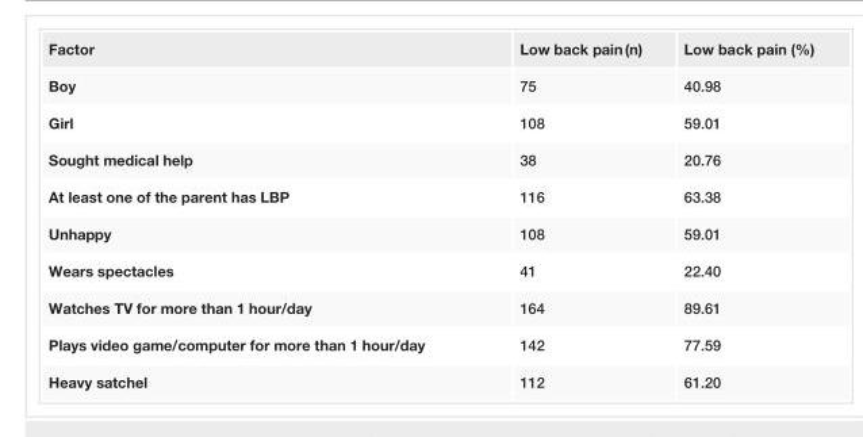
<table><tbody><tr><td>Factor</td><td>Low back pain (n)</td><td>Low back pain (%)</td></tr><tr><td>Boy</td><td>75</td><td>40.98</td></tr><tr><td>Girl</td><td>108</td><td>59.01</td></tr><tr><td>Sought medical help</td><td>38</td><td>20.76</td></tr><tr><td>At least one of the parent has LBP</td><td>116</td><td>63.38</td></tr><tr><td>Unhappy</td><td>108</td><td>59.01</td></tr><tr><td>Wears spectacles</td><td>41</td><td>22.40</td></tr><tr><td>Watches TV for more than 1 hour/day</td><td>164</td><td>89.61</td></tr><tr><td>Plays video game/computer for more than 1 hour/day</td><td>142</td><td>77.59</td></tr><tr><td>Heavy satchel</td><td>112</td><td>61.20</td></tr></tbody></table>